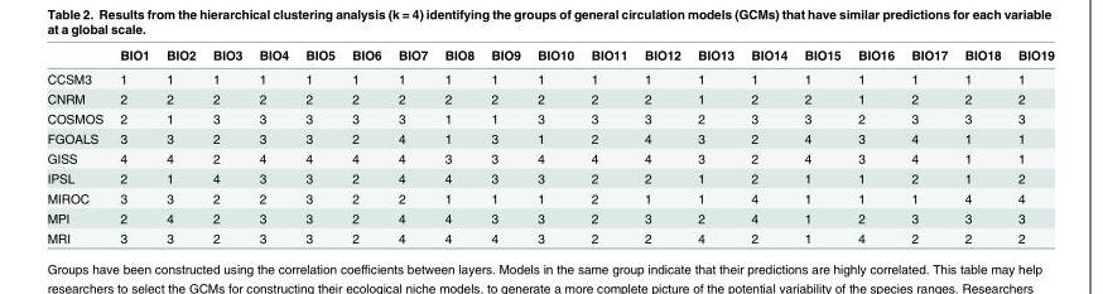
<table><thead><tr><td></td><td>BIO1</td><td>BIO2</td><td>BIO3</td><td>BIO4</td><td>BIO5</td><td>BIO6</td><td>BIO7</td><td>BIO8</td><td>BIO9</td><td>BIO10</td><td>BIO11</td><td>BIO12</td><td>BIO13</td><td>BIO14</td><td>BIO15</td><td>BIO16</td><td>BIO17</td><td>BIO18</td><td>BIO19</td></tr></thead><tbody><tr><td>CCSM3</td><td>1</td><td>1</td><td>1</td><td>1</td><td>1</td><td>1</td><td>1</td><td>1</td><td>1</td><td>1</td><td>1</td><td>1</td><td>1</td><td>1</td><td>1</td><td>1</td><td>1</td><td>1</td><td>1</td></tr><tr><td>CNRM</td><td>2</td><td>2</td><td>2</td><td>2</td><td>2</td><td>2</td><td>2</td><td>2</td><td>2</td><td>2</td><td>2</td><td>2</td><td>1</td><td>2</td><td>2</td><td>1</td><td>2</td><td>2</td><td>2</td></tr><tr><td>COSMOS</td><td>2</td><td>1</td><td>3</td><td>3</td><td>3</td><td>3</td><td>3</td><td>1</td><td>1</td><td>3</td><td>3</td><td>3</td><td>2</td><td>3</td><td>3</td><td>2</td><td>3</td><td>3</td><td>3</td></tr><tr><td>FGOALS</td><td>3</td><td>3</td><td>2</td><td>3</td><td>3</td><td>2</td><td>4</td><td>1</td><td>3</td><td>1</td><td>2</td><td>4</td><td>3</td><td>2</td><td>4</td><td>3</td><td>4</td><td>1</td><td>1</td></tr><tr><td>GISS</td><td>4</td><td>4</td><td>2</td><td>4</td><td>4</td><td>4</td><td>4</td><td>3</td><td>3</td><td>4</td><td>4</td><td>4</td><td>3</td><td>2</td><td>4</td><td>3</td><td>4</td><td>1</td><td>1</td></tr><tr><td>IPSL</td><td>2</td><td>1</td><td>4</td><td>3</td><td>3</td><td>2</td><td>4</td><td>4</td><td>3</td><td>3</td><td>2</td><td>2</td><td>1</td><td>2</td><td>1</td><td>1</td><td>2</td><td>1</td><td>2</td></tr><tr><td>MIROC</td><td>3</td><td>3</td><td>2</td><td>2</td><td>3</td><td>2</td><td>2</td><td>1</td><td>1</td><td>1</td><td>2</td><td>1</td><td>1</td><td>4</td><td>1</td><td>1</td><td>1</td><td>4</td><td>4</td></tr><tr><td>MPI</td><td>2</td><td>4</td><td>2</td><td>3</td><td>3</td><td>2</td><td>4</td><td>4</td><td>3</td><td>3</td><td>2</td><td>3</td><td>2</td><td>4</td><td>1</td><td>2</td><td>3</td><td>3</td><td>3</td></tr><tr><td>MRI</td><td>3</td><td>3</td><td>2</td><td>3</td><td>3</td><td>2</td><td>4</td><td>4</td><td>4</td><td>3</td><td>2</td><td>2</td><td>4</td><td>2</td><td>1</td><td>4</td><td>2</td><td>2</td><td>2</td></tr></tbody></table>